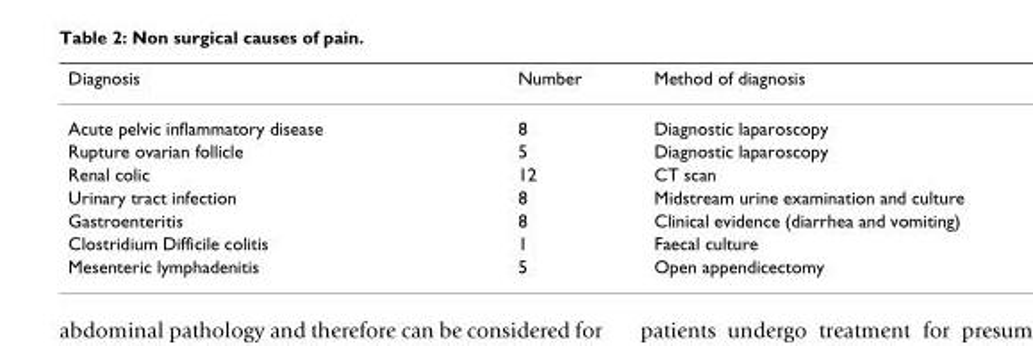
<table><thead><tr><td>Diagnosis</td><td>Number</td><td>Method of diagnosis</td></tr></thead><tbody><tr><td>Acute pelvic inflammatory disease</td><td>8</td><td>Diagnostic laparoscopy</td></tr><tr><td>Rupture ovarian follicle</td><td>5</td><td>Diagnostic laparoscopy</td></tr><tr><td>Renal colic</td><td>12</td><td>CT scan</td></tr><tr><td>Urinary tract infection</td><td>8</td><td>Midstream urine examination and culture</td></tr><tr><td>Gastroenteritis</td><td>8</td><td>Clinical evidence (diarrhea and vomiting)</td></tr><tr><td>Clostridium Difficile colitis</td><td>1</td><td>Faecal culture</td></tr><tr><td>Mesenteric lymphadenitis</td><td>5</td><td>Open appendicectomy</td></tr></tbody></table>